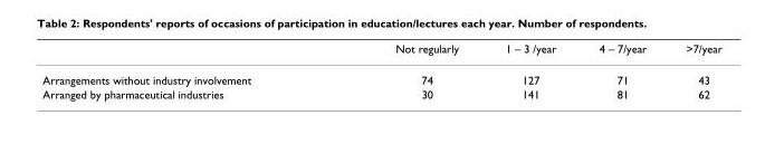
<table><thead><tr><td></td><td>Not regularly</td><td>1 – 3 /year</td><td>4 – 7/year</td><td>&gt;7/year</td></tr></thead><tbody><tr><td>Arrangements without industry involvement</td><td>74</td><td>127</td><td>71</td><td>43</td></tr><tr><td>Arranged by pharmaceutical industries</td><td>30</td><td>141</td><td>81</td><td>62</td></tr></tbody></table>